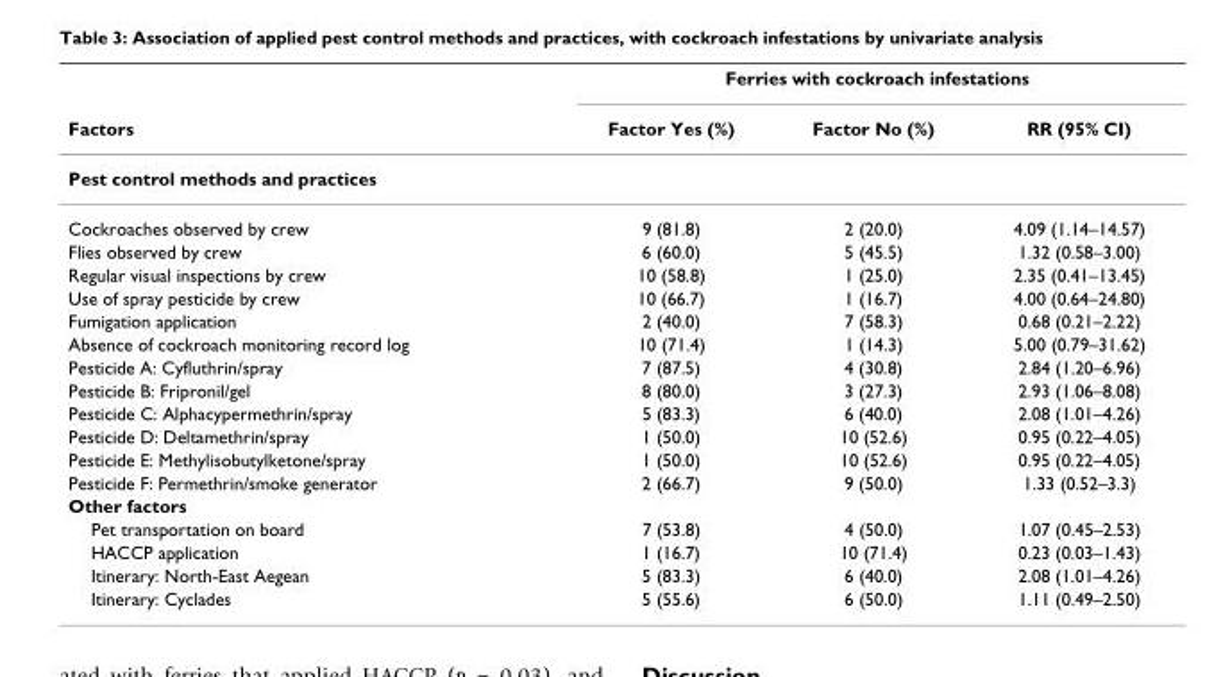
<table><thead><tr><td rowspan="2">Factors</td><td colspan="3">Ferries with cockroach infestations</td></tr><tr><td>Factor Yes (%)</td><td>Factor No (%)</td><td>RR (95% CI)</td></tr></thead><tbody><tr><td colspan="4">Pest control methods and practices</td></tr><tr><td>Cockroaches observed by crew</td><td>9 (81.8)</td><td>2 (20.0)</td><td>4.09 (1.14–14.57)</td></tr><tr><td>Flies observed by crew</td><td>6 (60.0)</td><td>5 (45.5)</td><td>1.32 (0.58–3.00)</td></tr><tr><td>Regular visual inspections by crew</td><td>10 (58.8)</td><td>1 (25.0)</td><td>2.35 (0.41–13.45)</td></tr><tr><td>Use of spray pesticide by crew</td><td>10 (66.7)</td><td>1 (16.7)</td><td>4.00 (0.64–24.80)</td></tr><tr><td>Fumigation application</td><td>2 (40.0)</td><td>7 (58.3)</td><td>0.68 (0.21–2.22)</td></tr><tr><td>Absence of cockroach monitoring record log</td><td>10 (71.4)</td><td>1 (14.3)</td><td>5.00 (0.79–31.62)</td></tr><tr><td>Pesticide A: Cyfluthrin/spray</td><td>7 (87.5)</td><td>4 (30.8)</td><td>2.84 (1.20–6.96)</td></tr><tr><td>Pesticide B: Fripronil/gel</td><td>8 (80.0)</td><td>3 (27.3)</td><td>2.93 (1.06–8.08)</td></tr><tr><td>Pesticide C: Alphacypermethrin/spray</td><td>5 (83.3)</td><td>6 (40.0)</td><td>2.08 (1.01–4.26)</td></tr><tr><td>Pesticide D: Deltamethrin/spray</td><td>1 (50.0)</td><td>10 (52.6)</td><td>0.95 (0.22–4.05)</td></tr><tr><td>Pesticide E: Methylisobutylketone/spray</td><td>1 (50.0)</td><td>10 (52.6)</td><td>0.95 (0.22–4.05)</td></tr><tr><td>Pesticide F: Permethrin/smoke generator</td><td>2 (66.7)</td><td>9 (50.0)</td><td>1.33 (0.52–3.3)</td></tr><tr><td colspan="4">Other factors</td></tr><tr><td>Pet transportation on board</td><td>7 (53.8)</td><td>4 (50.0)</td><td>1.07 (0.45–2.53)</td></tr><tr><td>HACCP application</td><td>1 (16.7)</td><td>10 (71.4)</td><td>0.23 (0.03–1.43)</td></tr><tr><td>Itinerary: North-East Aegean</td><td>5 (83.3)</td><td>6 (40.0)</td><td>2.08 (1.01–4.26)</td></tr><tr><td>Itinerary: Cyclades</td><td>5 (55.6)</td><td>6 (50.0)</td><td>1.11 (0.49–2.50)</td></tr></tbody></table>